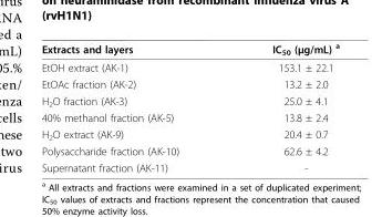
<table><thead><tr><td>Extracts and layers</td><td>IC<sub>50</sub> (μg/mL) <sup>a</sup></td></tr></thead><tbody><tr><td>EtOH extract (AK-1)</td><td>153.1 ± 22.1</td></tr><tr><td>EtOAc fraction (AK-2)</td><td>13.2 ± 2.0</td></tr><tr><td>H<sub>2</sub>O fraction (AK-3)</td><td>25.0 ± 4.1</td></tr><tr><td>40% methanol fraction (AK-5)</td><td>13.8 ± 2.4</td></tr><tr><td>H<sub>2</sub>O extract (AK-9)</td><td>20.4 ± 0.7</td></tr><tr><td>Polysaccharide fraction (AK-10)</td><td>62.6 ± 4.2</td></tr><tr><td>Supernatant fraction (AK-11)</td><td>-</td></tr></tbody></table>